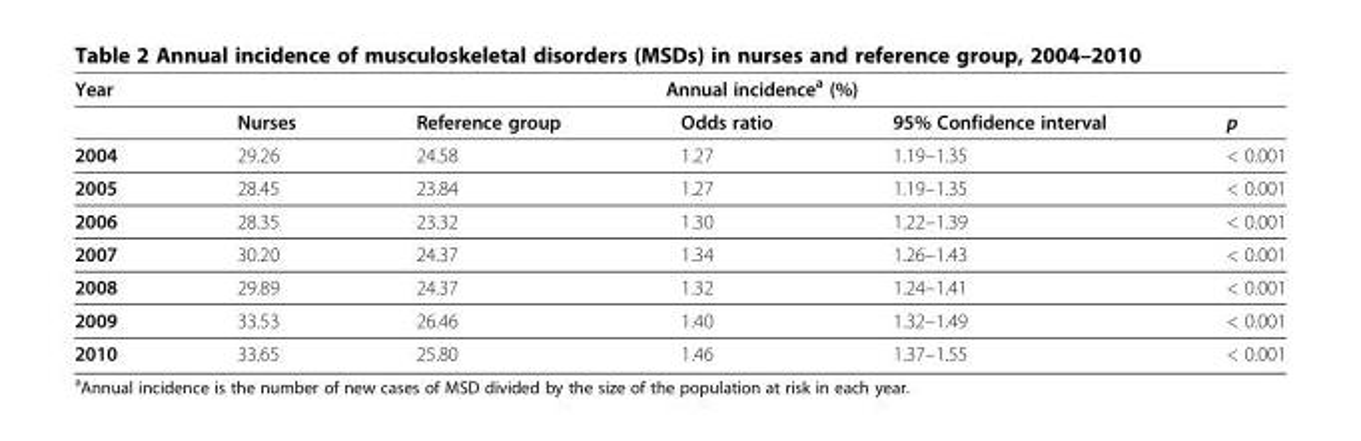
<table><thead><tr><td rowspan="2">Year</td><td colspan="5">Annual incidence<sup>a</sup> (%)</td></tr><tr><td>Nurses</td><td>Reference group</td><td>Odds ratio</td><td>95% Confidence interval</td><td>p</td></tr></thead><tbody><tr><td>2004</td><td>29.26</td><td>24.58</td><td>1.27</td><td>1.19–1.35</td><td>&lt; 0.001</td></tr><tr><td>2005</td><td>28.45</td><td>23.84</td><td>1.27</td><td>1.19–1.35</td><td>&lt; 0.001</td></tr><tr><td>2006</td><td>28.35</td><td>23.32</td><td>1.30</td><td>1.22–1.39</td><td>&lt; 0.001</td></tr><tr><td>2007</td><td>30.20</td><td>24.37</td><td>1.34</td><td>1.26–1.43</td><td>&lt; 0.001</td></tr><tr><td>2008</td><td>29.89</td><td>24.37</td><td>1.32</td><td>1.24–1.41</td><td>&lt; 0.001</td></tr><tr><td>2009</td><td>33.53</td><td>26.46</td><td>1.40</td><td>1.32–1.49</td><td>&lt; 0.001</td></tr><tr><td>2010</td><td>33.65</td><td>25.80</td><td>1.46</td><td>1.37–1.55</td><td>&lt; 0.001</td></tr></tbody></table>